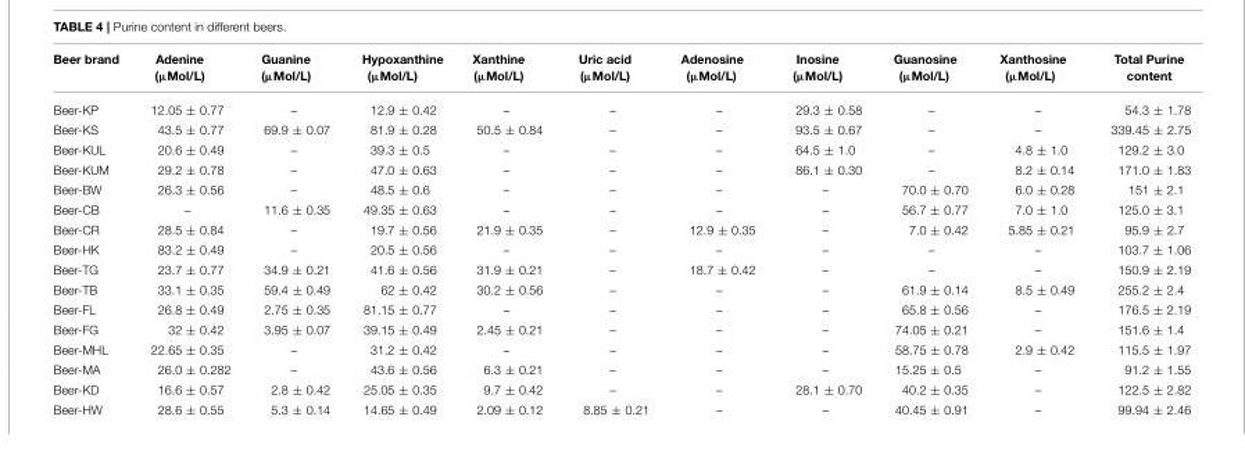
<table><thead><tr><td>Beer brand</td><td>Adenine (µMol/L)</td><td>Guanine (µMol/L)</td><td>Hypoxanthine (µMol/L)</td><td>Xanthine (µMol/L)</td><td>Uric acid (µMol/L)</td><td>Adenosine (µMol/L)</td><td>Inosine (µMol/L)</td><td>Guanosine (µMol/L)</td><td>Xanthosine (µMol/L)</td><td>Total Purine content</td></tr></thead><tbody><tr><td>Beer-KP</td><td>12.05 ± 0.77</td><td>–</td><td>12.9 ± 0.42</td><td>–</td><td>–</td><td>–</td><td>29.3 ± 0.58</td><td>–</td><td>–</td><td>54.3 ± 1.78</td></tr><tr><td>Beer-KS</td><td>43.5 ± 0.77</td><td>69.9 ± 0.07</td><td>81.9 ± 0.28</td><td>50.5 ± 0.84</td><td>–</td><td>–</td><td>93.5 ± 0.67</td><td>–</td><td>–</td><td>339.45 ± 2.75</td></tr><tr><td>Beer-KUL</td><td>20.6 ± 0.49</td><td>–</td><td>39.3 ± 0.5</td><td>–</td><td>–</td><td>–</td><td>64.5 ± 1.0</td><td>–</td><td>4.8 ± 1.0</td><td>129.2 ± 3.0</td></tr><tr><td>Beer-KUM</td><td>29.2 ± 0.78</td><td>–</td><td>47.0 ± 0.63</td><td>–</td><td>–</td><td>–</td><td>86.1 ± 0.30</td><td>–</td><td>8.2 ± 0.14</td><td>171.0 ± 1.83</td></tr><tr><td>Beer-BW</td><td>26.3 ± 0.56</td><td>–</td><td>48.5 ± 0.6</td><td>–</td><td>–</td><td>–</td><td>–</td><td>70.0 ± 0.70</td><td>6.0 ± 0.28</td><td>151 ± 2.1</td></tr><tr><td>Beer-CB</td><td>–</td><td>11.6 ± 0.35</td><td>49.35 ± 0.63</td><td>–</td><td>–</td><td>–</td><td>–</td><td>56.7 ± 0.77</td><td>7.0 ± 1.0</td><td>125.0 ± 3.1</td></tr><tr><td>Beer-CR</td><td>28.5 ± 0.84</td><td>–</td><td>19.7 ± 0.56</td><td>21.9 ± 0.35</td><td>–</td><td>12.9 ± 0.35</td><td>–</td><td>7.0 ± 0.42</td><td>5.85 ± 0.21</td><td>95.9 ± 2.7</td></tr><tr><td>Beer-HK</td><td>83.2 ± 0.49</td><td>–</td><td>20.5 ± 0.56</td><td>–</td><td>–</td><td>–</td><td>–</td><td>–</td><td>–</td><td>103.7 ± 1.06</td></tr><tr><td>Beer-TG</td><td>23.7 ± 0.77</td><td>34.9 ± 0.21</td><td>41.6 ± 0.56</td><td>31.9 ± 0.21</td><td>–</td><td>18.7 ± 0.42</td><td>–</td><td>–</td><td>–</td><td>150.9 ± 2.19</td></tr><tr><td>Beer-TB</td><td>33.1 ± 0.35</td><td>59.4 ± 0.49</td><td>62 ± 0.42</td><td>30.2 ± 0.56</td><td>–</td><td>–</td><td>–</td><td>61.9 ± 0.14</td><td>8.5 ± 0.49</td><td>255.2 ± 2.4</td></tr><tr><td>Beer-FL</td><td>26.8 ± 0.49</td><td>2.75 ± 0.35</td><td>81.15 ± 0.77</td><td>–</td><td>–</td><td>–</td><td>–</td><td>65.8 ± 0.56</td><td>–</td><td>176.5 ± 2.19</td></tr><tr><td>Beer-FG</td><td>32 ± 0.42</td><td>3.95 ± 0.07</td><td>39.15 ± 0.49</td><td>2.45 ± 0.21</td><td>–</td><td>–</td><td>–</td><td>74.05 ± 0.21</td><td>–</td><td>151.6 ± 1.4</td></tr><tr><td>Beer-MHL</td><td>22.65 ± 0.35</td><td>–</td><td>31.2 ± 0.42</td><td>–</td><td>–</td><td>–</td><td>–</td><td>58.75 ± 0.78</td><td>2.9 ± 0.42</td><td>115.5 ± 1.97</td></tr><tr><td>Beer-MA</td><td>26.0 ± 0.282</td><td>–</td><td>43.6 ± 0.56</td><td>6.3 ± 0.21</td><td>–</td><td>–</td><td>–</td><td>15.25 ± 0.5</td><td>–</td><td>91.2 ± 1.55</td></tr><tr><td>Beer-KD</td><td>16.6 ± 0.57</td><td>2.8 ± 0.42</td><td>25.05 ± 0.35</td><td>9.7 ± 0.42</td><td>–</td><td>–</td><td>28.1 ± 0.70</td><td>40.2 ± 0.35</td><td>–</td><td>122.5 ± 2.82</td></tr><tr><td>Beer-HW</td><td>28.6 ± 0.55</td><td>5.3 ± 0.14</td><td>14.65 ± 0.49</td><td>2.09 ± 0.12</td><td>8.85 ± 0.21</td><td>–</td><td>–</td><td>40.45 ± 0.91</td><td>–</td><td>99.94 ± 2.46</td></tr></tbody></table>